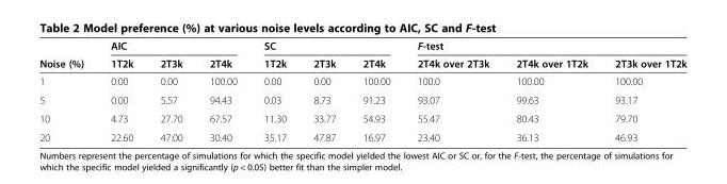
<table><thead><tr><td rowspan="2">Noise (%)</td><td colspan="3">AIC</td><td colspan="3">SC</td><td colspan="3">F-test</td></tr><tr><td>1T2k</td><td>2T3k</td><td>2T4k</td><td>1T2k</td><td>2T3k</td><td>2T4k</td><td>2T4k over 2T3k</td><td>2T4k over 1T2k</td><td>2T3k over 1T2k</td></tr></thead><tbody><tr><td>1</td><td>0.00</td><td>0.00</td><td>100.00</td><td>0.00</td><td>0.00</td><td>100.00</td><td>100.0</td><td>100.00</td><td>100.00</td></tr><tr><td>5</td><td>0.00</td><td>5.57</td><td>94.43</td><td>0.03</td><td>8.73</td><td>91.23</td><td>93.07</td><td>99.63</td><td>93.17</td></tr><tr><td>10</td><td>4.73</td><td>27.70</td><td>67.57</td><td>11.30</td><td>33.77</td><td>54.93</td><td>55.47</td><td>80.43</td><td>79.70</td></tr><tr><td>20</td><td>22.60</td><td>47.00</td><td>30.40</td><td>35.17</td><td>47.87</td><td>16.97</td><td>23.40</td><td>36.13</td><td>46.93</td></tr></tbody></table>